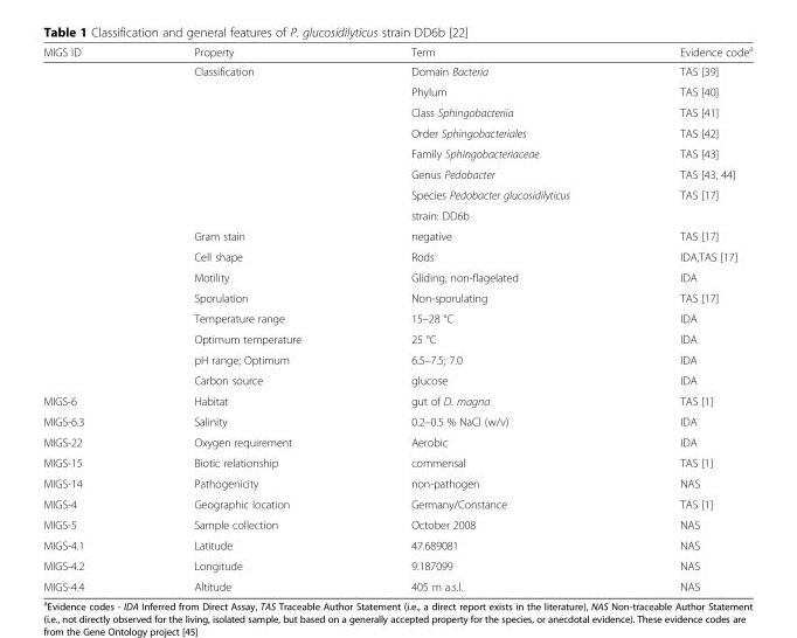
<table><thead><tr><td>MIGS ID</td><td>Property</td><td>Term</td><td>Evidence code<sup>a</sup></td></tr></thead><tbody><tr><td></td><td>Classification</td><td>Domain Bacteria</td><td>TAS [39]</td></tr><tr><td></td><td></td><td>Phylum</td><td>TAS [40]</td></tr><tr><td></td><td></td><td>Class Sphingobacteriia</td><td>TAS [41]</td></tr><tr><td></td><td></td><td>Order Sphingobacteriales</td><td>TAS [42]</td></tr><tr><td></td><td></td><td>Family Sphingobacteriaceae</td><td>TAS [43]</td></tr><tr><td></td><td></td><td>Genus Pedobacter</td><td>TAS [43, 44]</td></tr><tr><td></td><td></td><td>Species Pedobacter glucosidilyticus</td><td>TAS [17]</td></tr><tr><td></td><td></td><td>strain: DD6b</td><td></td></tr><tr><td></td><td>Gram stain</td><td>negative</td><td>TAS [17]</td></tr><tr><td></td><td>Cell shape</td><td>Rods</td><td>IDA,TAS [17]</td></tr><tr><td></td><td>Motility</td><td>Gliding, non-flagelated</td><td>IDA</td></tr><tr><td></td><td>Sporulation</td><td>Non-sporulating</td><td>TAS [17]</td></tr><tr><td></td><td>Temperature range</td><td>15–28 °C</td><td>IDA</td></tr><tr><td></td><td>Optimum temperature</td><td>25 °C</td><td>IDA</td></tr><tr><td></td><td>pH range; Optimum</td><td>6.5–7.5; 7.0</td><td>IDA</td></tr><tr><td></td><td>Carbon source</td><td>glucose</td><td>IDA</td></tr><tr><td>MIGS-6</td><td>Habitat</td><td>gut of D. magna</td><td>TAS [1]</td></tr><tr><td>MIGS-6.3</td><td>Salinity</td><td>0.2–0.5 % NaCl (w/v)</td><td>IDA</td></tr><tr><td>MIGS-22</td><td>Oxygen requirement</td><td>Aerobic</td><td>IDA</td></tr><tr><td>MIGS-15</td><td>Biotic relationship</td><td>commensal</td><td>TAS [1]</td></tr><tr><td>MIGS-14</td><td>Pathogenicity</td><td>non-pathogen</td><td>NAS</td></tr><tr><td>MIGS-4</td><td>Geographic location</td><td>Germany/Constance</td><td>TAS [1]</td></tr><tr><td>MIGS-5</td><td>Sample collection</td><td>October 2008</td><td>NAS</td></tr><tr><td>MIGS-4.1</td><td>Latitude</td><td>47.689081</td><td>NAS</td></tr><tr><td>MIGS-4.2</td><td>Longitude</td><td>9.187099</td><td>NAS</td></tr><tr><td>MIGS-4.4</td><td>Altitude</td><td>405 m a.s.l.</td><td>NAS</td></tr></tbody></table>